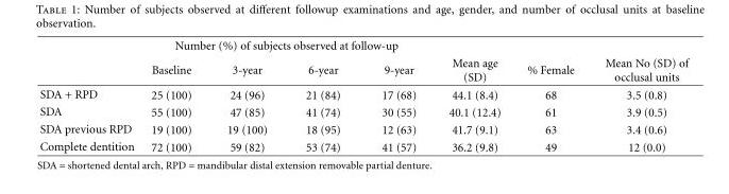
<table><thead><tr><td rowspan="2"></td><td colspan="4">Number (%) of subjects observed at follow-up</td><td rowspan="2">Mean age (SD)</td><td rowspan="2">% Female</td><td rowspan="2">Mean No (SD) of occlusal units</td></tr><tr><td>Baseline</td><td>3-year</td><td>6-year</td><td>9-year</td></tr></thead><tbody><tr><td>SDA + RPD</td><td>25 (100)</td><td>24 (96)</td><td>21 (84)</td><td>17 (68)</td><td>44.1 (8.4)</td><td>68</td><td>3.5 (0.8)</td></tr><tr><td>SDA</td><td>55 (100)</td><td>47 (85)</td><td>41 (74)</td><td>30 (55)</td><td>40.1 (12.4)</td><td>61</td><td>3.9 (0.5)</td></tr><tr><td>SDA previous RPD</td><td>19 (100)</td><td>19 (100)</td><td>18 (95)</td><td>12 (63)</td><td>41.7 (9.1)</td><td>63</td><td>3.4 (0.6)</td></tr><tr><td>Complete dentition</td><td>72 (100)</td><td>59 (82)</td><td>53 (74)</td><td>41 (57)</td><td>36.2 (9.8)</td><td>49</td><td>12 (0.0)</td></tr></tbody></table>